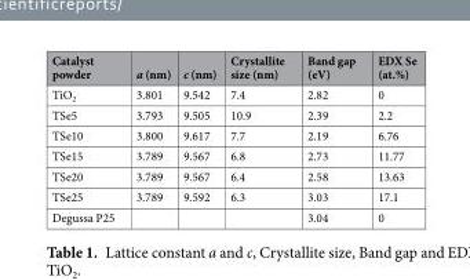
<table><thead><tr><td>Catalyst powder</td><td>a (nm)</td><td>c (nm)</td><td>Crystallite size (nm)</td><td>Band gap (eV)</td><td>EDX Se (at.%)</td></tr></thead><tbody><tr><td>TiO<sub>2</sub></td><td>3.801</td><td>9.542</td><td>7.4</td><td>2.82</td><td>0</td></tr><tr><td>TSe5</td><td>3.793</td><td>9.505</td><td>10.9</td><td>2.39</td><td>2.2</td></tr><tr><td>TSe10</td><td>3.800</td><td>9.617</td><td>7.7</td><td>2.19</td><td>6.76</td></tr><tr><td>TSe15</td><td>3.789</td><td>9.567</td><td>6.8</td><td>2.73</td><td>11.77</td></tr><tr><td>TSe20</td><td>3.789</td><td>9.567</td><td>6.4</td><td>2.58</td><td>13.63</td></tr><tr><td>TSe25</td><td>3.789</td><td>9.592</td><td>6.3</td><td>3.03</td><td>17.1</td></tr><tr><td>Degussa P25</td><td></td><td></td><td></td><td>3.04</td><td>0</td></tr></tbody></table>